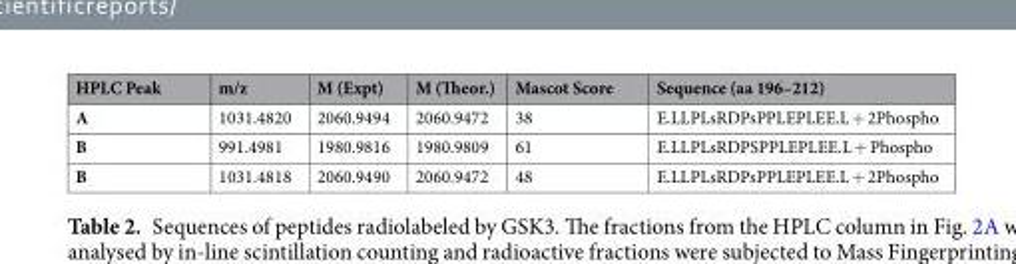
<table><thead><tr><td>HPLC Peak</td><td>m/z</td><td>M (Expt)</td><td>M (Theor.)</td><td>Mascot Score</td><td>Sequence (aa 196–212)</td></tr></thead><tbody><tr><td>A</td><td>1031.4820</td><td>2060.9494</td><td>2060.9472</td><td>38</td><td>E.LLPLsRDPsPPLEPLEE.L + 2Phospho</td></tr><tr><td>B</td><td>991.4981</td><td>1980.9816</td><td>1980.9809</td><td>61</td><td>E.LLPLsRDPSPPLEPLEE.L + Phospho</td></tr><tr><td>B</td><td>1031.4818</td><td>2060.9490</td><td>2060.9472</td><td>48</td><td>E.LLPLsRDPsPPLEPLEE.L + 2Phospho</td></tr></tbody></table>